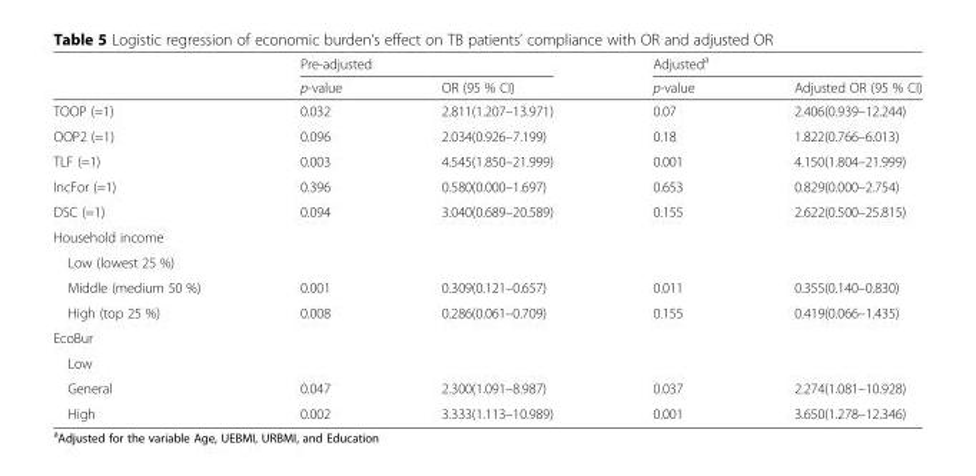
<table><thead><tr><td rowspan="2"></td><td colspan="2">Pre-adjusted</td><td colspan="2">Adjusted<sup>a</sup></td></tr><tr><td>p-value</td><td>OR (95 % CI)</td><td>p-value</td><td>Adjusted OR (95 % CI)</td></tr></thead><tbody><tr><td>TOOP (=1)</td><td>0.032</td><td>2.811(1.207–13.971)</td><td>0.07</td><td>2.406(0.939–12.244)</td></tr><tr><td>OOP2 (=1)</td><td>0.096</td><td>2.034(0.926–7.199)</td><td>0.18</td><td>1.822(0.766–6.013)</td></tr><tr><td>TLF (=1)</td><td>0.003</td><td>4.545(1.850–21.999)</td><td>0.001</td><td>4.150(1.804–21.999)</td></tr><tr><td>IncFor (=1)</td><td>0.396</td><td>0.580(0.000–1.697)</td><td>0.653</td><td>0.829(0.000–2.754)</td></tr><tr><td>DSC (=1)</td><td>0.094</td><td>3.040(0.689–20.589)</td><td>0.155</td><td>2.622(0.500–25.815)</td></tr><tr><td colspan="5">Household income</td></tr><tr><td colspan="5">Low (lowest 25 %)</td></tr><tr><td>Middle (medium 50 %)</td><td>0.001</td><td>0.309(0.121–0.657)</td><td>0.011</td><td>0.355(0.140–0.830)</td></tr><tr><td>High (top 25 %)</td><td>0.008</td><td>0.286(0.061–0.709)</td><td>0.155</td><td>0.419(0.066–1.435)</td></tr><tr><td colspan="5">EcoBur</td></tr><tr><td colspan="5">Low</td></tr><tr><td>General</td><td>0.047</td><td>2.300(1.091–8.987)</td><td>0.037</td><td>2.274(1.081–10.928)</td></tr><tr><td>High</td><td>0.002</td><td>3.333(1.113–10.989)</td><td>0.001</td><td>3.650(1.278–12.346)</td></tr></tbody></table>